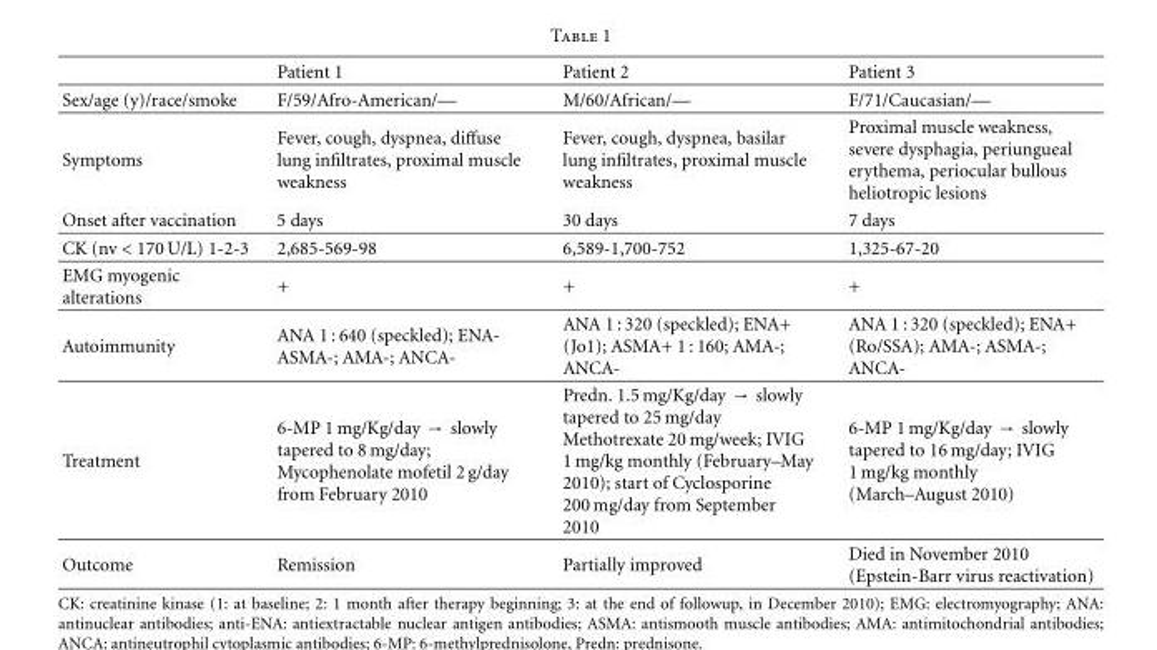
<table><thead><tr><td></td><td>Patient 1</td><td>Patient 2</td><td>Patient 3</td></tr></thead><tbody><tr><td>Sex/age (y)/race/smoke</td><td>F/59/Afro-American/—</td><td>M/60/African/—</td><td>F/71/Caucasian/—</td></tr><tr><td>Symptoms</td><td>Fever, cough, dyspnea, diffuse lung infiltrates, proximal muscle weakness</td><td>Fever, cough, dyspnea, basilar lung infiltrates, proximal muscle weakness</td><td>Proximal muscle weakness, severe dysphagia, periungueal erythema, periocular bullous heliotropic lesions</td></tr><tr><td>Onset after vaccination</td><td>5 days</td><td>30 days</td><td>7 days</td></tr><tr><td>CK (nv &lt; 170 U/L) 1-2-3</td><td>2,685-569-98</td><td>6,589-1,700-752</td><td>1,325-67-20</td></tr><tr><td>EMG myogenic alterations</td><td>+</td><td>+</td><td>+</td></tr><tr><td>Autoimmunity</td><td>ANA 1 : 640 (speckled); ENA- ASMA-; AMA-; ANCA-</td><td>ANA 1 : 320 (speckled); ENA+ (Jo1); ASMA+ 1 : 160; AMA-; ANCA-</td><td>ANA 1 : 320 (speckled); ENA+ (Ro/SSA); AMA-; ASMA-; ANCA-</td></tr><tr><td>Treatment</td><td>6-MP 1 mg/Kg/day → slowly tapered to 8 mg/day; Mycophenolate mofetil 2 g/day from February 2010</td><td>Predn. 1.5 mg/Kg/day → slowly tapered to 25 mg/day Methotrexate 20 mg/week; IVIG 1 mg/kg monthly (February–May 2010); start of Cyclosporine 200 mg/day from September 2010</td><td>6-MP 1 mg/Kg/day → slowly tapered to 16 mg/day; IVIG 1 mg/kg monthly (March–August 2010)</td></tr><tr><td>Outcome</td><td>Remission</td><td>Partially improved</td><td>Died in November 2010 (Epstein-Barr virus reactivation)</td></tr></tbody></table>